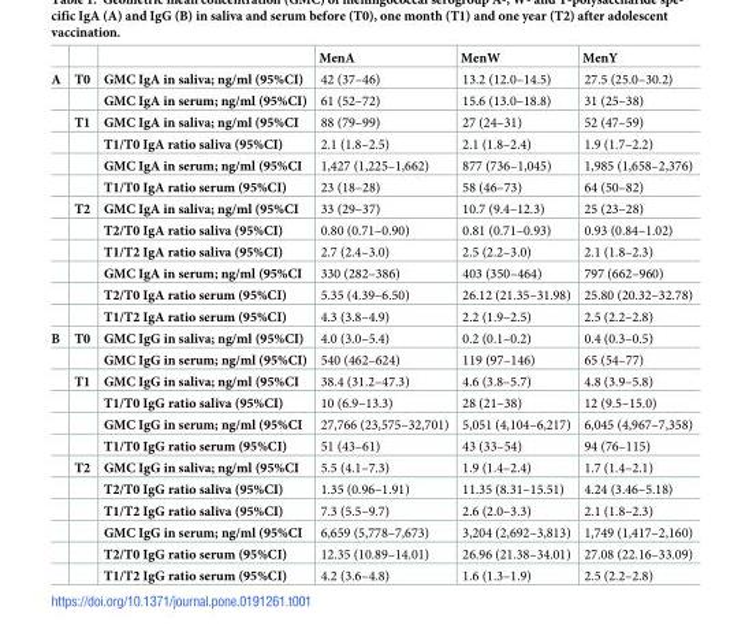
<table><thead><tr><td></td><td></td><td></td><td>MenA</td><td>MenW</td><td>MenY</td></tr></thead><tbody><tr><td rowspan="12">A</td><td>T0</td><td>GMC IgA in saliva; ng/ml (95%CI)</td><td>42 (37–46)</td><td>13.2 (12.0–14.5)</td><td>27.5 (25.0–30.2)</td></tr><tr><td></td><td>GMC IgA in serum; ng/ml (95%CI)</td><td>61 (52–72)</td><td>15.6 (13.0–18.8)</td><td>31 (25–38)</td></tr><tr><td>T1</td><td>GMC IgA in saliva; ng/ml (95%CI</td><td>88 (79–99)</td><td>27 (24–31)</td><td>52 (47–59)</td></tr><tr><td></td><td>T1/T0 IgA ratio saliva (95%CI)</td><td>2.1 (1.8–2.5)</td><td>2.1 (1.8–2.4)</td><td>1.9 (1.7–2.2)</td></tr><tr><td></td><td>GMC IgA in serum; ng/ml (95%CI</td><td>1,427 (1,225–1,662)</td><td>877 (736–1,045)</td><td>1,985 (1,658–2,376)</td></tr><tr><td></td><td>T1/T0 IgA ratio serum (95%CI)</td><td>23 (18–28)</td><td>58 (46–73)</td><td>64 (50–82)</td></tr><tr><td>T2</td><td>GMC IgA in saliva; ng/ml (95%CI</td><td>33 (29–37)</td><td>10.7 (9.4–12.3)</td><td>25 (23–28)</td></tr><tr><td></td><td>T2/T0 IgA ratio saliva (95%CI)</td><td>0.80 (0.71–0.90)</td><td>0.81 (0.71–0.93)</td><td>0.93 (0.84–1.02)</td></tr><tr><td></td><td>T1/T2 IgA ratio saliva (95%CI)</td><td>2.7 (2.4–3.0)</td><td>2.5 (2.2–3.0)</td><td>2.1 (1.8–2.3)</td></tr><tr><td></td><td>GMC IgA in serum; ng/ml (95%CI</td><td>330 (282–386)</td><td>403 (350–464)</td><td>797 (662–960)</td></tr><tr><td></td><td>T2/T0 IgA ratio serum (95%CI)</td><td>5.35 (4.39–6.50)</td><td>26.12 (21.35–31.98)</td><td>25.80 (20.32–32.78)</td></tr><tr><td></td><td>T1/T2 IgA ratio serum (95%CI)</td><td>4.3 (3.8–4.9)</td><td>2.2 (1.9–2.5)</td><td>2.5 (2.2–2.8)</td></tr><tr><td rowspan="12">B</td><td>T0</td><td>GMC IgG in saliva; ng/ml (95%CI)</td><td>4.0 (3.0–5.4)</td><td>0.2 (0.1–0.2)</td><td>0.4 (0.3–0.5)</td></tr><tr><td></td><td>GMC IgG in serum; ng/ml (95%CI)</td><td>540 (462–624)</td><td>119 (97–146)</td><td>65 (54–77)</td></tr><tr><td>T1</td><td>GMC IgG in saliva; ng/ml (95%CI</td><td>38.4 (31.2–47.3)</td><td>4.6 (3.8–5.7)</td><td>4.8 (3.9–5.8)</td></tr><tr><td></td><td>T1/T0 IgG ratio saliva (95%CI)</td><td>10 (6.9–13.3)</td><td>28 (21–38)</td><td>12 (9.5–15.0)</td></tr><tr><td></td><td>GMC IgG in serum; ng/ml (95%CI</td><td>27,766 (23,575–32,701)</td><td>5,051 (4,104–6,217)</td><td>6,045 (4,967–7,358)</td></tr><tr><td></td><td>T1/T0 IgG ratio serum (95%CI)</td><td>51 (43–61)</td><td>43 (33–54)</td><td>94 (76–115)</td></tr><tr><td>T2</td><td>GMC IgG in saliva; ng/ml (95%CI</td><td>5.5 (4.1–7.3)</td><td>1.9 (1.4–2.4)</td><td>1.7 (1.4–2.1)</td></tr><tr><td></td><td>T2/T0 IgG ratio saliva (95%CI)</td><td>1.35 (0.96–1.91)</td><td>11.35 (8.31–15.51)</td><td>4.24 (3.46–5.18)</td></tr><tr><td></td><td>T1/T2 IgG ratio saliva (95%CI)</td><td>7.3 (5.5–9.7)</td><td>2.6 (2.0–3.3)</td><td>2.1 (1.8–2.3)</td></tr><tr><td></td><td>GMC IgG in serum; ng/ml (95%CI</td><td>6,659 (5,778–7,673)</td><td>3,204 (2,692–3,813)</td><td>1,749 (1,417–2,160)</td></tr><tr><td></td><td>T2/T0 IgG ratio serum (95%CI)</td><td>12.35 (10.89–14.01)</td><td>26.96 (21.38–34.01)</td><td>27.08 (22.16–33.09)</td></tr><tr><td></td><td>T1/T2 IgG ratio serum (95%CI)</td><td>4.2 (3.6–4.8)</td><td>1.6 (1.3–1.9)</td><td>2.5 (2.2–2.8)</td></tr></tbody></table>